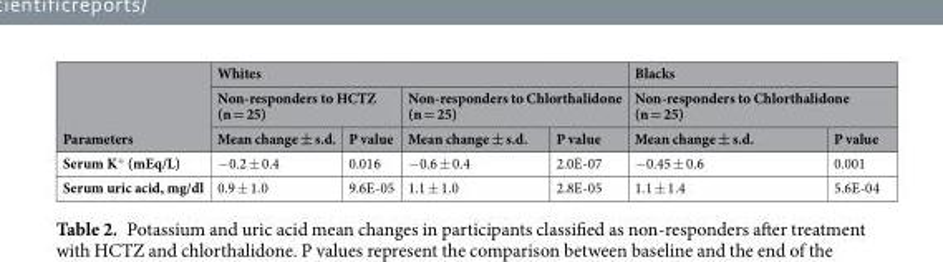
<table><thead><tr><td rowspan="3">Parameters</td><td colspan="4">Whites</td><td rowspan="2" colspan="2">Blacks Non-responders to Chlorthalidone (n = 25)</td></tr><tr><td colspan="2">Non-responders to HCTZ (n = 25)</td><td colspan="2">Non-responders to Chlorthalidone (n = 25)</td></tr><tr><td>Mean change ± s.d.</td><td>P value</td><td>Mean change ± s.d.</td><td>P value</td><td>Mean change ± s.d.</td><td>P value</td></tr></thead><tbody><tr><td>Serum K<sup>+</sup> (mEq/L)</td><td>−0.2 ± 0.4</td><td>0.016</td><td>−0.6 ± 0.4</td><td>2.0E-07</td><td>−0.45 ± 0.6</td><td>0.001</td></tr><tr><td>Serum uric acid, mg/dl</td><td>0.9 ± 1.0</td><td>9.6E-05</td><td>1.1 ± 1.0</td><td>2.8E-05</td><td>1.1 ± 1.4</td><td>5.6E-04</td></tr></tbody></table>